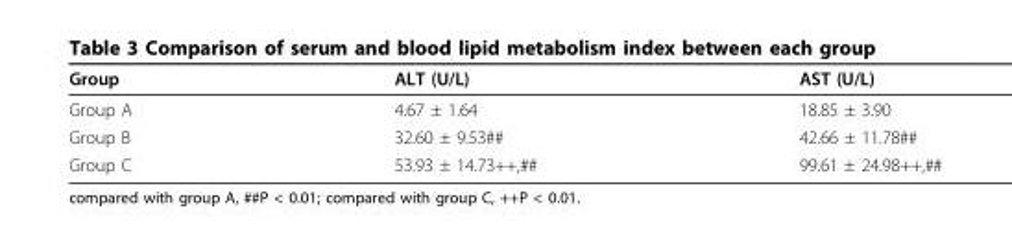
<table><thead><tr><td>Group</td><td>ALT (U/L)</td><td>AST (U/L)</td></tr></thead><tbody><tr><td>Group A</td><td>4.67 ± 1.64</td><td>18.85 ± 3.90</td></tr><tr><td>Group B</td><td>32.60 ± 9.53##</td><td>42.66 ± 11.78##</td></tr><tr><td>Group C</td><td>53.93 ± 14.73++,##</td><td>99.61 ± 24.98++,##</td></tr></tbody></table>